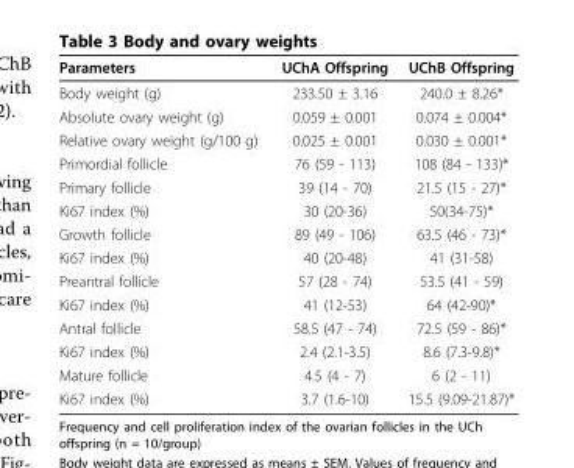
<table><thead><tr><td>Parameters</td><td>UChA Offspring</td><td>UChB Offspring</td></tr></thead><tbody><tr><td>Body weight (g)</td><td>233.50 ± 3.16</td><td>240.0 ± 8.26*</td></tr><tr><td>Absolute ovary weight (g)</td><td>0.059 ± 0.001</td><td>0.074 ± 0.004*</td></tr><tr><td>Relative ovary weight (g/100 g)</td><td>0.025 ± 0.001</td><td>0.030 ± 0.001*</td></tr><tr><td>Primordial follicle</td><td>76 (59 - 113)</td><td>108 (84 - 133)*</td></tr><tr><td>Primary follicle</td><td>39 (14 - 70)</td><td>21.5 (15 - 27)*</td></tr><tr><td>Ki67 index (%)</td><td>30 (20-36)</td><td>50(34-75)*</td></tr><tr><td>Growth follicle</td><td>89 (49 - 106)</td><td>63.5 (46 - 73)*</td></tr><tr><td>Ki67 index (%)</td><td>40 (20-48)</td><td>41 (31-58)</td></tr><tr><td>Preantral follicle</td><td>57 (28 - 74)</td><td>53.5 (41 - 59)</td></tr><tr><td>Ki67 index (%)</td><td>41 (12-53)</td><td>64 (42-90)*</td></tr><tr><td>Antral follicle</td><td>58.5 (47 - 74)</td><td>72.5 (59 - 86)*</td></tr><tr><td>Ki67 index (%)</td><td>2.4 (2.1-3.5)</td><td>8.6 (7.3-9.8)*</td></tr><tr><td>Mature follicle</td><td>4.5 (4 - 7)</td><td>6 (2 - 11)</td></tr><tr><td>Ki67 index (%)</td><td>3.7 (1.6-10)</td><td>15.5 (9.09-21.87)*</td></tr></tbody></table>